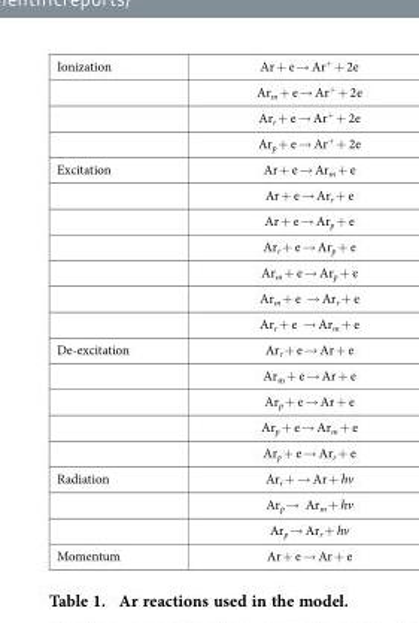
<table><tbody><tr><td rowspan="4">Ionization</td><td>Ar + e → Ar<sup>+</sup> + 2e</td></tr><tr><td>Ar<sub>m</sub> + e → Ar<sup>+</sup> + 2e</td></tr><tr><td>Ar<sub>r</sub> + e → Ar<sup>+</sup> + 2e</td></tr><tr><td>Ar<sub>p</sub> + e → Ar<sup>+</sup> + 2e</td></tr><tr><td rowspan="7">Excitation</td><td>Ar + e → Ar<sub>m</sub> + e</td></tr><tr><td>Ar + e → Ar<sub>r</sub> + e</td></tr><tr><td>Ar + e → Ar<sub>p</sub> + e</td></tr><tr><td>Ar<sub>r</sub> + e → Ar<sub>p</sub> + e</td></tr><tr><td>Ar<sub>m</sub> + e → Ar<sub>p</sub> + e</td></tr><tr><td>Ar<sub>m</sub> + e → Ar<sub>r</sub> + e</td></tr><tr><td>Ar<sub>r</sub> + e → Ar<sub>m</sub> + e</td></tr><tr><td rowspan="5">De-excitation</td><td>Ar<sub>r</sub> + e → Ar + e</td></tr><tr><td>Ar<sub>m</sub> + e → Ar + e</td></tr><tr><td>Ar<sub>p</sub> + e → Ar + e</td></tr><tr><td>Ar<sub>p</sub> + e → Ar<sub>m</sub> + e</td></tr><tr><td>Ar<sub>p</sub> + e → Ar<sub>r</sub> + e</td></tr><tr><td rowspan="3">Radiation</td><td>Ar<sub>r</sub> + → Ar + hv</td></tr><tr><td>Ar<sub>p</sub> → Ar<sub>m</sub> + hv</td></tr><tr><td>Ar<sub>p</sub> → Ar<sub>r</sub> + hv</td></tr><tr><td>Momentum</td><td>Ar + e → Ar + e</td></tr></tbody></table>